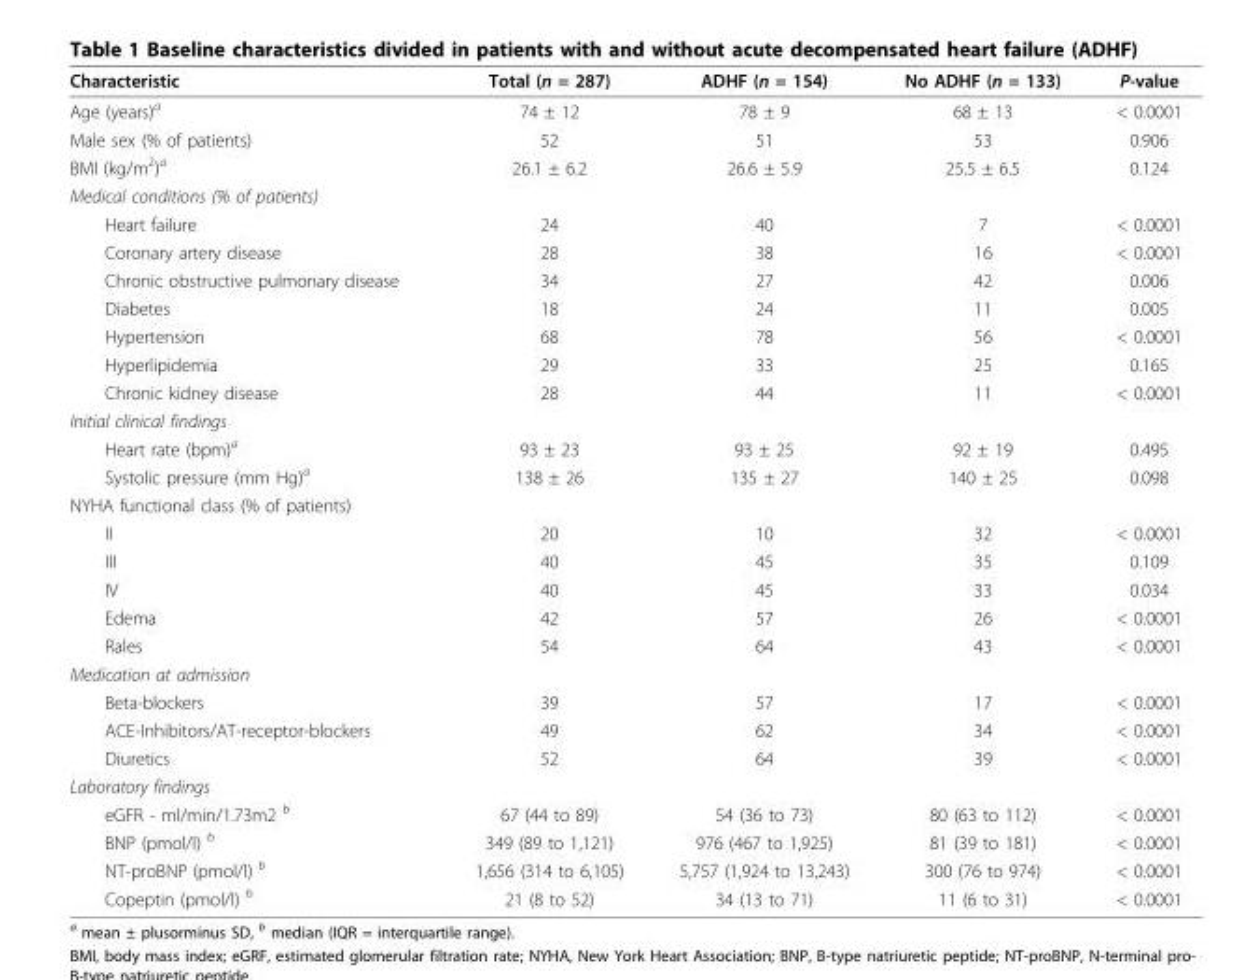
<table><thead><tr><td>Characteristic</td><td>Total (n = 287)</td><td>ADHF (n = 154)</td><td>No ADHF (n = 133)</td><td>P-value</td></tr></thead><tbody><tr><td>Age (years)<sup>a</sup></td><td>74 ± 12</td><td>78 ± 9</td><td>68 ± 13</td><td>&lt; 0.0001</td></tr><tr><td>Male sex (% of patients)</td><td>52</td><td>51</td><td>53</td><td>0.906</td></tr><tr><td>BMI (kg/m<sup>2</sup>)<sup>a</sup></td><td>26.1 ± 6.2</td><td>26.6 ± 5.9</td><td>25.5 ± 6.5</td><td>0.124</td></tr><tr><td colspan="5">Medical conditions (% of patients)</td></tr><tr><td>Heart failure</td><td>24</td><td>40</td><td>7</td><td>&lt; 0.0001</td></tr><tr><td>Coronary artery disease</td><td>28</td><td>38</td><td>16</td><td>&lt; 0.0001</td></tr><tr><td>Chronic obstructive pulmonary disease</td><td>34</td><td>27</td><td>42</td><td>0.006</td></tr><tr><td>Diabetes</td><td>18</td><td>24</td><td>11</td><td>0.005</td></tr><tr><td>Hypertension</td><td>68</td><td>78</td><td>56</td><td>&lt; 0.0001</td></tr><tr><td>Hyperlipidemia</td><td>29</td><td>33</td><td>25</td><td>0.165</td></tr><tr><td>Chronic kidney disease</td><td>28</td><td>44</td><td>11</td><td>&lt; 0.0001</td></tr><tr><td colspan="5">Initial clinical findings</td></tr><tr><td>Heart rate (bpm)<sup>a</sup></td><td>93 ± 23</td><td>93 ± 25</td><td>92 ± 19</td><td>0.495</td></tr><tr><td>Systolic pressure (mm Hg)<sup>a</sup></td><td>138 ± 26</td><td>135 ± 27</td><td>140 ± 25</td><td>0.098</td></tr><tr><td colspan="5">NYHA functional class (% of patients)</td></tr><tr><td>II</td><td>20</td><td>10</td><td>32</td><td>&lt; 0.0001</td></tr><tr><td>III</td><td>40</td><td>45</td><td>35</td><td>0.109</td></tr><tr><td>IV</td><td>40</td><td>45</td><td>33</td><td>0.034</td></tr><tr><td>Edema</td><td>42</td><td>57</td><td>26</td><td>&lt; 0.0001</td></tr><tr><td>Rales</td><td>54</td><td>64</td><td>43</td><td>&lt; 0.0001</td></tr><tr><td colspan="5">Medication at admission</td></tr><tr><td>Beta-blockers</td><td>39</td><td>57</td><td>17</td><td>&lt; 0.0001</td></tr><tr><td>ACE-Inhibitors/AT-receptor-blockers</td><td>49</td><td>62</td><td>34</td><td>&lt; 0.0001</td></tr><tr><td>Diuretics</td><td>52</td><td>64</td><td>39</td><td>&lt; 0.0001</td></tr><tr><td colspan="5">Laboratory findings</td></tr><tr><td>eGFR - ml/min/1.73m2 <sup>b</sup></td><td>67 (44 to 89)</td><td>54 (36 to 73)</td><td>80 (63 to 112)</td><td>&lt; 0.0001</td></tr><tr><td>BNP (pmol/l) <sup>b</sup></td><td>349 (89 to 1,121)</td><td>976 (467 to 1,925)</td><td>81 (39 to 181)</td><td>&lt; 0.0001</td></tr><tr><td>NT-proBNP (pmol/l) <sup>b</sup></td><td>1,656 (314 to 6,105)</td><td>5,757 (1,924 to 13,243)</td><td>300 (76 to 974)</td><td>&lt; 0.0001</td></tr><tr><td>Copeptin (pmol/l) <sup>b</sup></td><td>21 (8 to 52)</td><td>34 (13 to 71)</td><td>11 (6 to 31)</td><td>&lt; 0.0001</td></tr></tbody></table>